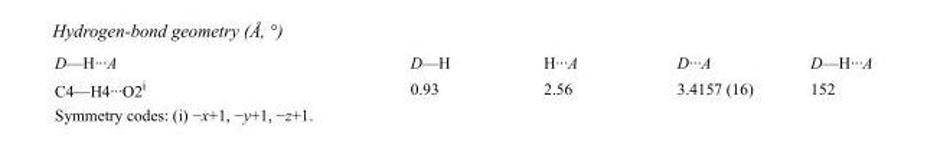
<table><tbody><tr><td>D—H···A</td><td>D—H</td><td>H···A</td><td>D···A</td><td>D—H···A</td></tr><tr><td>C4—H4···O2<sup>i</sup></td><td>0.93</td><td>2.56</td><td>3.4157 (16)</td><td>152</td></tr></tbody></table>